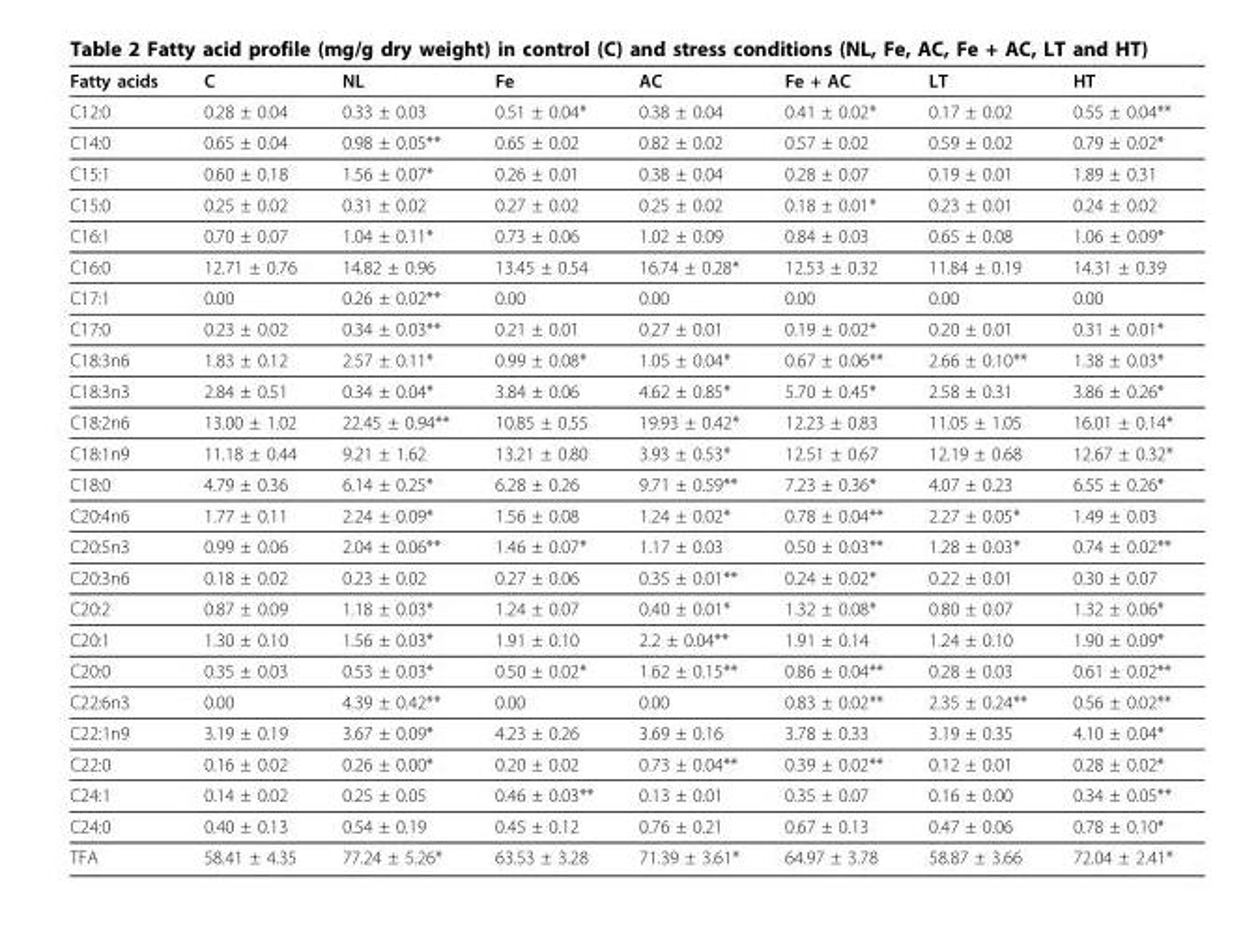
<table><thead><tr><td>Fatty acids</td><td>C</td><td>NL</td><td>Fe</td><td>AC</td><td>Fe + AC</td><td>LT</td><td>HT</td></tr></thead><tbody><tr><td>C12:0</td><td>0.28 ± 0.04</td><td>0.33 ± 0.03</td><td>0.51 ± 0.04*</td><td>0.38 ± 0.04</td><td>0.41 ± 0.02*</td><td>0.17 ± 0.02</td><td>0.55 ± 0.04**</td></tr><tr><td>C14:0</td><td>0.65 ± 0.04</td><td>0.98 ± 0.05**</td><td>0.65 ± 0.02</td><td>0.82 ± 0.02</td><td>0.57 ± 0.02</td><td>0.59 ± 0.02</td><td>0.79 ± 0.02*</td></tr><tr><td>C15:1</td><td>0.60 ± 0.18</td><td>1.56 ± 0.07*</td><td>0.26 ± 0.01</td><td>0.38 ± 0.04</td><td>0.28 ± 0.07</td><td>0.19 ± 0.01</td><td>1.89 ± 0.31</td></tr><tr><td>C15:0</td><td>0.25 ± 0.02</td><td>0.31 ± 0.02</td><td>0.27 ± 0.02</td><td>0.25 ± 0.02</td><td>0.18 ± 0.01*</td><td>0.23 ± 0.01</td><td>0.24 ± 0.02</td></tr><tr><td>C16:1</td><td>0.70 ± 0.07</td><td>1.04 ± 0.11*</td><td>0.73 ± 0.06</td><td>1.02 ± 0.09</td><td>0.84 ± 0.03</td><td>0.65 ± 0.08</td><td>1.06 ± 0.09*</td></tr><tr><td>C16:0</td><td>12.71 ± 0.76</td><td>14.82 ± 0.96</td><td>13.45 ± 0.54</td><td>16.74 ± 0.28*</td><td>12.53 ± 0.32</td><td>11.84 ± 0.19</td><td>14.31 ± 0.39</td></tr><tr><td>C17:1</td><td>0.00</td><td>0.26 ± 0.02**</td><td>0.00</td><td>0.00</td><td>0.00</td><td>0.00</td><td>0.00</td></tr><tr><td>C17:0</td><td>0.23 ± 0.02</td><td>0.34 ± 0.03**</td><td>0.21 ± 0.01</td><td>0.27 ± 0.01</td><td>0.19 ± 0.02*</td><td>0.20 ± 0.01</td><td>0.31 ± 0.01*</td></tr><tr><td>C18:3n6</td><td>1.83 ± 0.12</td><td>2.57 ± 0.11*</td><td>0.99 ± 0.08*</td><td>1.05 ± 0.04*</td><td>0.67 ± 0.06**</td><td>2.66 ± 0.10**</td><td>1.38 ± 0.03*</td></tr><tr><td>C18:3n3</td><td>2.84 ± 0.51</td><td>0.34 ± 0.04*</td><td>3.84 ± 0.06</td><td>4.62 ± 0.85*</td><td>5.70 ± 0.45*</td><td>2.58 ± 0.31</td><td>3.86 ± 0.26*</td></tr><tr><td>C18:2n6</td><td>13.00 ± 1.02</td><td>22.45 ± 0.94**</td><td>10.85 ± 0.55</td><td>19.93 ± 0.42*</td><td>12.23 ± 0.83</td><td>11.05 ± 1.05</td><td>16.01 ± 0.14*</td></tr><tr><td>C18:1n9</td><td>11.18 ± 0.44</td><td>9.21 ± 1.62</td><td>13.21 ± 0.80</td><td>3.93 ± 0.53*</td><td>12.51 ± 0.67</td><td>12.19 ± 0.68</td><td>12.67 ± 0.32*</td></tr><tr><td>C18:0</td><td>4.79 ± 0.36</td><td>6.14 ± 0.25*</td><td>6.28 ± 0.26</td><td>9.71 ± 0.59**</td><td>7.23 ± 0.36*</td><td>4.07 ± 0.23</td><td>6.55 ± 0.26*</td></tr><tr><td>C20:4n6</td><td>1.77 ± 0.11</td><td>2.24 ± 0.09*</td><td>1.56 ± 0.08</td><td>1.24 ± 0.02*</td><td>0.78 ± 0.04**</td><td>2.27 ± 0.05*</td><td>1.49 ± 0.03</td></tr><tr><td>C20:5n3</td><td>0.99 ± 0.06</td><td>2.04 ± 0.06**</td><td>1.46 ± 0.07*</td><td>1.17 ± 0.03</td><td>0.50 ± 0.03**</td><td>1.28 ± 0.03*</td><td>0.74 ± 0.02**</td></tr><tr><td>C20:3n6</td><td>0.18 ± 0.02</td><td>0.23 ± 0.02</td><td>0.27 ± 0.06</td><td>0.35 ± 0.01**</td><td>0.24 ± 0.02*</td><td>0.22 ± 0.01</td><td>0.30 ± 0.07</td></tr><tr><td>C20:2</td><td>0.87 ± 0.09</td><td>1.18 ± 0.03*</td><td>1.24 ± 0.07</td><td>0.40 ± 0.01*</td><td>1.32 ± 0.08*</td><td>0.80 ± 0.07</td><td>1.32 ± 0.06*</td></tr><tr><td>C20:1</td><td>1.30 ± 0.10</td><td>1.56 ± 0.03*</td><td>1.91 ± 0.10</td><td>2.2 ± 0.04**</td><td>1.91 ± 0.14</td><td>1.24 ± 0.10</td><td>1.90 ± 0.09*</td></tr><tr><td>C20:0</td><td>0.35 ± 0.03</td><td>0.53 ± 0.03*</td><td>0.50 ± 0.02*</td><td>1.62 ± 0.15**</td><td>0.86 ± 0.04**</td><td>0.28 ± 0.03</td><td>0.61 ± 0.02**</td></tr><tr><td>C22:6n3</td><td>0.00</td><td>4.39 ± 0.42**</td><td>0.00</td><td>0.00</td><td>0.83 ± 0.02**</td><td>2.35 ± 0.24**</td><td>0.56 ± 0.02**</td></tr><tr><td>C22:1n9</td><td>3.19 ± 0.19</td><td>3.67 ± 0.09*</td><td>4.23 ± 0.26</td><td>3.69 ± 0.16</td><td>3.78 ± 0.33</td><td>3.19 ± 0.35</td><td>4.10 ± 0.04*</td></tr><tr><td>C22:0</td><td>0.16 ± 0.02</td><td>0.26 ± 0.00*</td><td>0.20 ± 0.02</td><td>0.73 ± 0.04**</td><td>0.39 ± 0.02**</td><td>0.12 ± 0.01</td><td>0.28 ± 0.02*</td></tr><tr><td>C24:1</td><td>0.14 ± 0.02</td><td>0.25 ± 0.05</td><td>0.46 ± 0.03**</td><td>0.13 ± 0.01</td><td>0.35 ± 0.07</td><td>0.16 ± 0.00</td><td>0.34 ± 0.05**</td></tr><tr><td>C24:0</td><td>0.40 ± 0.13</td><td>0.54 ± 0.19</td><td>0.45 ± 0.12</td><td>0.76 ± 0.21</td><td>0.67 ± 0.13</td><td>0.47 ± 0.06</td><td>0.78 ± 0.10*</td></tr><tr><td>TFA</td><td>58.41 ± 4.35</td><td>77.24 ± 5.26*</td><td>63.53 ± 3.28</td><td>71.39 ± 3.61*</td><td>64.97 ± 3.78</td><td>58.87 ± 3.66</td><td>72.04 ± 2.41*</td></tr></tbody></table>